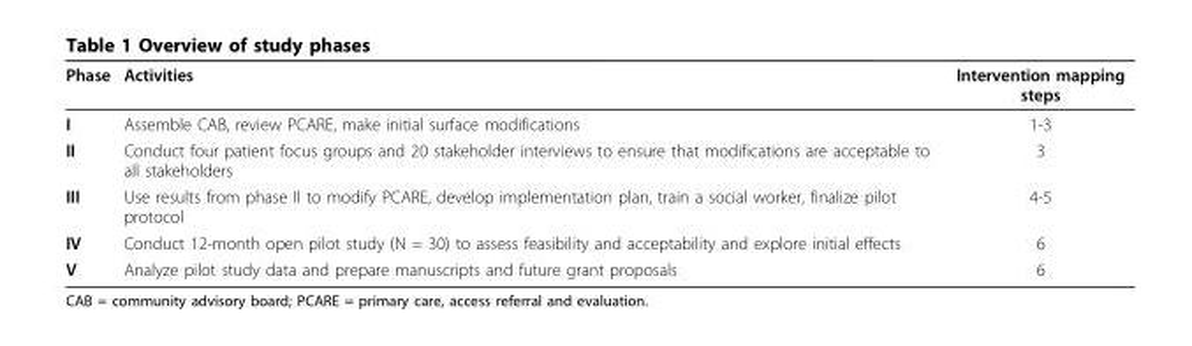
<table><thead><tr><td>Phase</td><td>Activities</td><td>Intervention mapping steps</td></tr></thead><tbody><tr><td>I</td><td>Assemble CAB, review PCARE, make initial surface modifications</td><td>1-3</td></tr><tr><td>II</td><td>Conduct four patient focus groups and 20 stakeholder interviews to ensure that modifications are acceptable to all stakeholders</td><td>3</td></tr><tr><td>III</td><td>Use results from phase II to modify PCARE, develop implementation plan, train a social worker, finalize pilot protocol</td><td>4-5</td></tr><tr><td>IV</td><td>Conduct 12-month open pilot study (N = 30) to assess feasibility and acceptability and explore initial effects</td><td>6</td></tr><tr><td>V</td><td>Analyze pilot study data and prepare manuscripts and future grant proposals</td><td>6</td></tr></tbody></table>